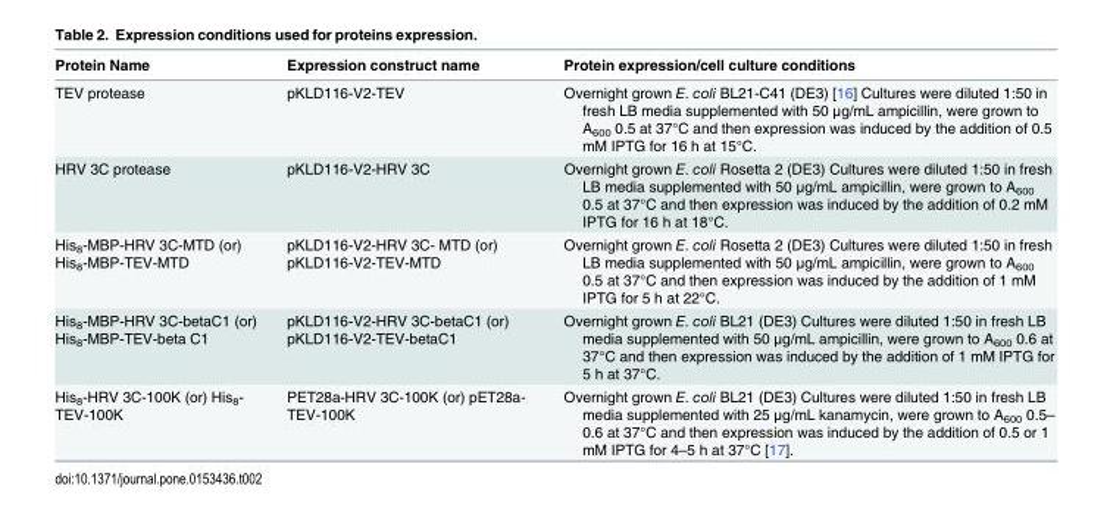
<table><thead><tr><td>Protein Name</td><td>Expression construct name</td><td>Protein expression/cell culture conditions</td></tr></thead><tbody><tr><td>TEV protease</td><td>pKLD116-V2-TEV</td><td>Overnight grown E. coli BL21-C41 (DE3) [16] Cultures were diluted 1:50 in fresh LB media supplemented with 50 μg/mL ampicillin, were grown to A<sub>600</sub> 0.5 at 37°C and then expression was induced by the addition of 0.5 mM IPTG for 16 h at 15°C.</td></tr><tr><td>HRV 3C protease</td><td>pKLD116-V2-HRV 3C</td><td>Overnight grown E. coli Rosetta 2 (DE3) Cultures were diluted 1:50 in fresh LB media supplemented with 50 μg/mL ampicillin, were grown to A<sub>600</sub> 0.5 at 37°C and then expression was induced by the addition of 0.2 mM IPTG for 16 h at 18°C.</td></tr><tr><td>His<sub>8</sub>-MBP-HRV 3C-MTD (or) His<sub>8</sub>-MBP-TEV-MTD</td><td>pKLD116-V2-HRV 3C- MTD (or) pKLD116-V2-TEV-MTD</td><td>Overnight grown E. coli Rosetta 2 (DE3) Cultures were diluted 1:50 in fresh LB media supplemented with 50 μg/mL ampicillin, were grown to A<sub>600</sub> 0.5 at 37°C and then expression was induced by the addition of 1 mM IPTG for 5 h at 22°C.</td></tr><tr><td>His<sub>8</sub>-MBP-HRV 3C-betaC1 (or) His<sub>8</sub>-MBP-TEV-beta C1</td><td>pKLD116-V2-HRV 3C-betaC1 (or) pKLD116-V2-TEV-betaC1</td><td>Overnight grown E. coli BL21 (DE3) Cultures were diluted 1:50 in fresh LB media supplemented with 50 μg/mL ampicillin, were grown to A<sub>600</sub> 0.6 at 37°C and then expression was induced by the addition of 1 mM IPTG for 5 h at 37°C.</td></tr><tr><td>His<sub>8</sub>-HRV 3C-100K (or) His<sub>8</sub>- TEV-100K</td><td>PET28a-HRV 3C-100K (or) pET28a- TEV-100K</td><td>Overnight grown E. coli BL21 (DE3) Cultures were diluted 1:50 in fresh LB media supplemented with 25 μg/mL kanamycin, were grown to A<sub>600</sub> 0.5– 0.6 at 37°C and then expression was induced by the addition of 0.5 or 1 mM IPTG for 4–5 h at 37°C [17].</td></tr></tbody></table>